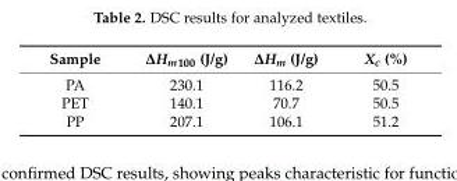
<table><thead><tr><td>Sample</td><td>∆Hm100 (J/g)</td><td>∆Hm (J/g)</td><td>X<sub>c</sub> (%)</td></tr></thead><tbody><tr><td>PA</td><td>230.1</td><td>116.2</td><td>50.5</td></tr><tr><td>PET</td><td>140.1</td><td>70.7</td><td>50.5</td></tr><tr><td>PP</td><td>207.1</td><td>106.1</td><td>51.2</td></tr></tbody></table>